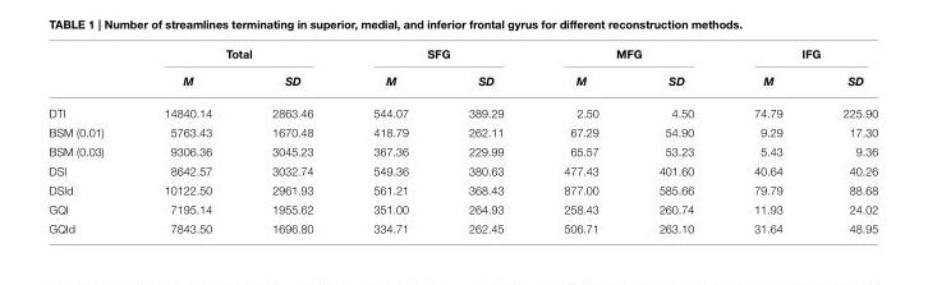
<table><thead><tr><td rowspan="2"></td><td colspan="2">Total</td><td colspan="2">SFG</td><td colspan="2">MFG</td><td colspan="2">IFG</td></tr><tr><td>M</td><td>SD</td><td>M</td><td>SD</td><td>M</td><td>SD</td><td>M</td><td>SD</td></tr></thead><tbody><tr><td>DTI</td><td>14840.14</td><td>2863.46</td><td>544.07</td><td>389.29</td><td>2.50</td><td>4.50</td><td>74.79</td><td>225.90</td></tr><tr><td>BSM (0.01)</td><td>5763.43</td><td>1670.48</td><td>418.79</td><td>262.11</td><td>67.29</td><td>54.90</td><td>9.29</td><td>17.30</td></tr><tr><td>BSM (0.03)</td><td>9306.36</td><td>3045.23</td><td>367.36</td><td>229.99</td><td>65.57</td><td>53.23</td><td>5.43</td><td>9.36</td></tr><tr><td>DSI</td><td>8642.57</td><td>3032.74</td><td>549.36</td><td>380.63</td><td>477.43</td><td>401.60</td><td>40.64</td><td>40.26</td></tr><tr><td>DSId</td><td>10122.50</td><td>2961.93</td><td>561.21</td><td>368.43</td><td>877.00</td><td>585.66</td><td>79.79</td><td>88.68</td></tr><tr><td>GQI</td><td>7195.14</td><td>1955.62</td><td>351.00</td><td>264.93</td><td>258.43</td><td>260.74</td><td>11.93</td><td>24.02</td></tr><tr><td>GQId</td><td>7843.50</td><td>1696.80</td><td>334.71</td><td>262.45</td><td>506.71</td><td>263.10</td><td>31.64</td><td>48.95</td></tr></tbody></table>